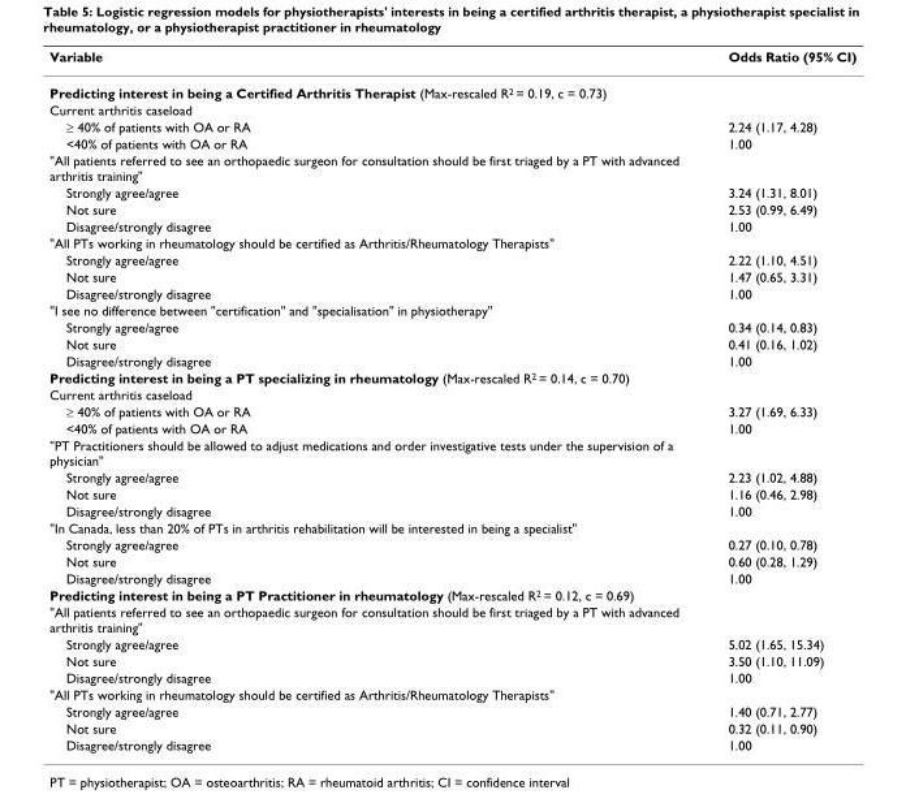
<table><thead><tr><td>Variable</td><td>Odds Ratio (95% CI)</td></tr></thead><tbody><tr><td colspan="2">Predicting interest in being a Certified Arthritis Therapist (Max-rescaled R<sup>2</sup> = 0.19, c = 0.73)</td></tr><tr><td colspan="2">Current arthritis caseload</td></tr><tr><td>≥ 40% of patients with OA or RA</td><td>2.24 (1.17, 4.28)</td></tr><tr><td>&lt;40% of patients with OA or RA</td><td>1.00</td></tr><tr><td colspan="2">&quot;All patients referred to see an orthopaedic surgeon for consultation should be first triaged by a PT with advanced arthritis training&quot;</td></tr><tr><td>Strongly agree/agree</td><td>3.24 (1.31, 8.01)</td></tr><tr><td>Not sure</td><td>2.53 (0.99, 6.49)</td></tr><tr><td>Disagree/strongly disagree</td><td>1.00</td></tr><tr><td colspan="2">&quot;All PTs working in rheumatology should be certified as Arthritis/Rheumatology Therapists&quot;</td></tr><tr><td>Strongly agree/agree</td><td>2.22 (1.10, 4.51)</td></tr><tr><td>Not sure</td><td>1.47 (0.65, 3.31)</td></tr><tr><td>Disagree/strongly disagree</td><td>1.00</td></tr><tr><td colspan="2">&quot;I see no difference between &quot;certification&quot; and &quot;specialisation&quot; in physiotherapy&quot;</td></tr><tr><td>Strongly agree/agree</td><td>0.34 (0.14, 0.83)</td></tr><tr><td>Not sure</td><td>0.41 (0.16, 1.02)</td></tr><tr><td>Disagree/strongly disagree</td><td>1.00</td></tr><tr><td colspan="2">Predicting interest in being a PT specializing in rheumatology (Max-rescaled R<sup>2</sup> = 0.14, c = 0.70)</td></tr><tr><td colspan="2">Current arthritis caseload</td></tr><tr><td>≥ 40% of patients with OA or RA</td><td>3.27 (1.69, 6.33)</td></tr><tr><td>&lt;40% of patients with OA or RA</td><td>1.00</td></tr><tr><td colspan="2">&quot;PT Practitioners should be allowed to adjust medications and order investigative tests under the supervision of a physician&quot;</td></tr><tr><td>Strongly agree/agree</td><td>2.23 (1.02, 4.88)</td></tr><tr><td>Not sure</td><td>1.16 (0.46, 2.98)</td></tr><tr><td>Disagree/strongly disagree</td><td>1.00</td></tr><tr><td colspan="2">&quot;In Canada, less than 20% of PTs in arthritis rehabilitation will be interested in being a specialist&quot;</td></tr><tr><td>Strongly agree/agree</td><td>0.27 (0.10, 0.78)</td></tr><tr><td>Not sure</td><td>0.60 (0.28, 1.29)</td></tr><tr><td>Disagree/strongly disagree</td><td>1.00</td></tr><tr><td colspan="2">Predicting interest in being a PT Practitioner in rheumatology (Max-rescaled R<sup>2</sup> = 0.12, c = 0.69)</td></tr><tr><td colspan="2">&quot;All patients referred to see an orthopaedic surgeon for consultation should be first triaged by a PT with advanced arthritis training&quot;</td></tr><tr><td>Strongly agree/agree</td><td>5.02 (1.65, 15.34)</td></tr><tr><td>Not sure</td><td>3.50 (1.10, 11.09)</td></tr><tr><td>Disagree/strongly disagree</td><td>1.00</td></tr><tr><td colspan="2">&quot;All PTs working in rheumatology should be certified as Arthritis/Rheumatology Therapists&quot;</td></tr><tr><td>Strongly agree/agree</td><td>1.40 (0.71, 2.77)</td></tr><tr><td>Not sure</td><td>0.32 (0.11, 0.90)</td></tr><tr><td>Disagree/strongly disagree</td><td>1.00</td></tr></tbody></table>